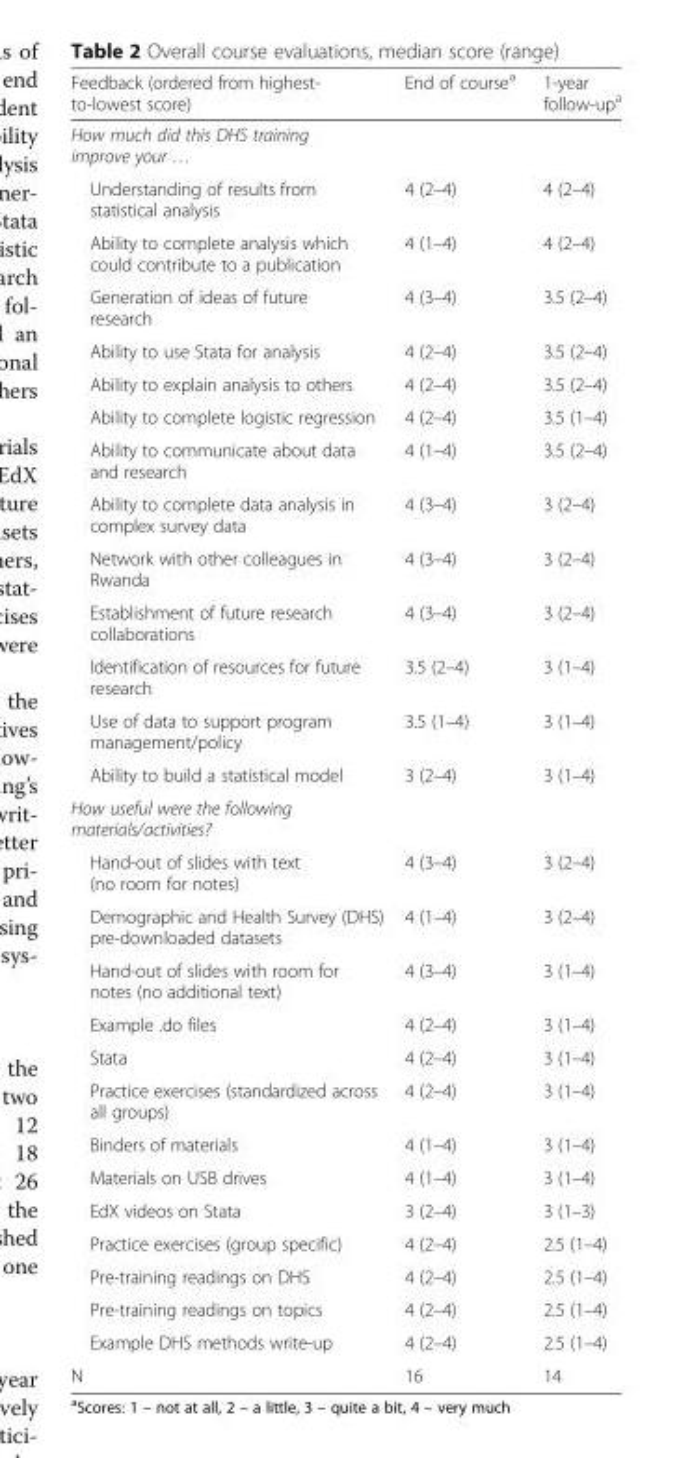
<table><thead><tr><td>Feedback (ordered from highest- to-lowest score)</td><td>End of course<sup>a</sup></td><td>1-year follow-up<sup>a</sup></td></tr></thead><tbody><tr><td colspan="3">How much did this DHS training improve your …</td></tr><tr><td>Understanding of results from statistical analysis</td><td>4 (2–4)</td><td>4 (2–4)</td></tr><tr><td>Ability to complete analysis which could contribute to a publication</td><td>4 (1–4)</td><td>4 (2–4)</td></tr><tr><td>Generation of ideas of future research</td><td>4 (3–4)</td><td>3.5 (2–4)</td></tr><tr><td>Ability to use Stata for analysis</td><td>4 (2–4)</td><td>3.5 (2–4)</td></tr><tr><td>Ability to explain analysis to others</td><td>4 (2–4)</td><td>3.5 (2–4)</td></tr><tr><td>Ability to complete logistic regression</td><td>4 (2–4)</td><td>3.5 (1–4)</td></tr><tr><td>Ability to communicate about data and research</td><td>4 (1–4)</td><td>3.5 (2–4)</td></tr><tr><td>Ability to complete data analysis in complex survey data</td><td>4 (3–4)</td><td>3 (2–4)</td></tr><tr><td>Network with other colleagues in Rwanda</td><td>4 (3–4)</td><td>3 (2–4)</td></tr><tr><td>Establishment of future research collaborations</td><td>4 (3–4)</td><td>3 (2–4)</td></tr><tr><td>Identification of resources for future research</td><td>3.5 (2–4)</td><td>3 (1–4)</td></tr><tr><td>Use of data to support program management/policy</td><td>3.5 (1–4)</td><td>3 (1–4)</td></tr><tr><td>Ability to build a statistical model</td><td>3 (2–4)</td><td>3 (1–4)</td></tr><tr><td colspan="3">How useful were the following materials/activities?</td></tr><tr><td>Hand-out of slides with text (no room for notes)</td><td>4 (3–4)</td><td>3 (2–4)</td></tr><tr><td>Demographic and Health Survey (DHS) pre-downloaded datasets</td><td>4 (1–4)</td><td>3 (2–4)</td></tr><tr><td>Hand-out of slides with room for notes (no additional text)</td><td>4 (3–4)</td><td>3 (1–4)</td></tr><tr><td>Example .do files</td><td>4 (2–4)</td><td>3 (1–4)</td></tr><tr><td>Stata</td><td>4 (2–4)</td><td>3 (1–4)</td></tr><tr><td>Practice exercises (standardized across all groups)</td><td>4 (2–4)</td><td>3 (1–4)</td></tr><tr><td>Binders of materials</td><td>4 (1–4)</td><td>3 (1–4)</td></tr><tr><td>Materials on USB drives</td><td>4 (1–4)</td><td>3 (1–4)</td></tr><tr><td>EdX videos on Stata</td><td>3 (2–4)</td><td>3 (1–3)</td></tr><tr><td>Practice exercises (group specific)</td><td>4 (2–4)</td><td>2.5 (1–4)</td></tr><tr><td>Pre-training readings on DHS</td><td>4 (2–4)</td><td>2.5 (1–4)</td></tr><tr><td>Pre-training readings on topics</td><td>4 (2–4)</td><td>2.5 (1–4)</td></tr><tr><td>Example DHS methods write-up</td><td>4 (2–4)</td><td>2.5 (1–4)</td></tr><tr><td>N</td><td>16</td><td>14</td></tr></tbody></table>